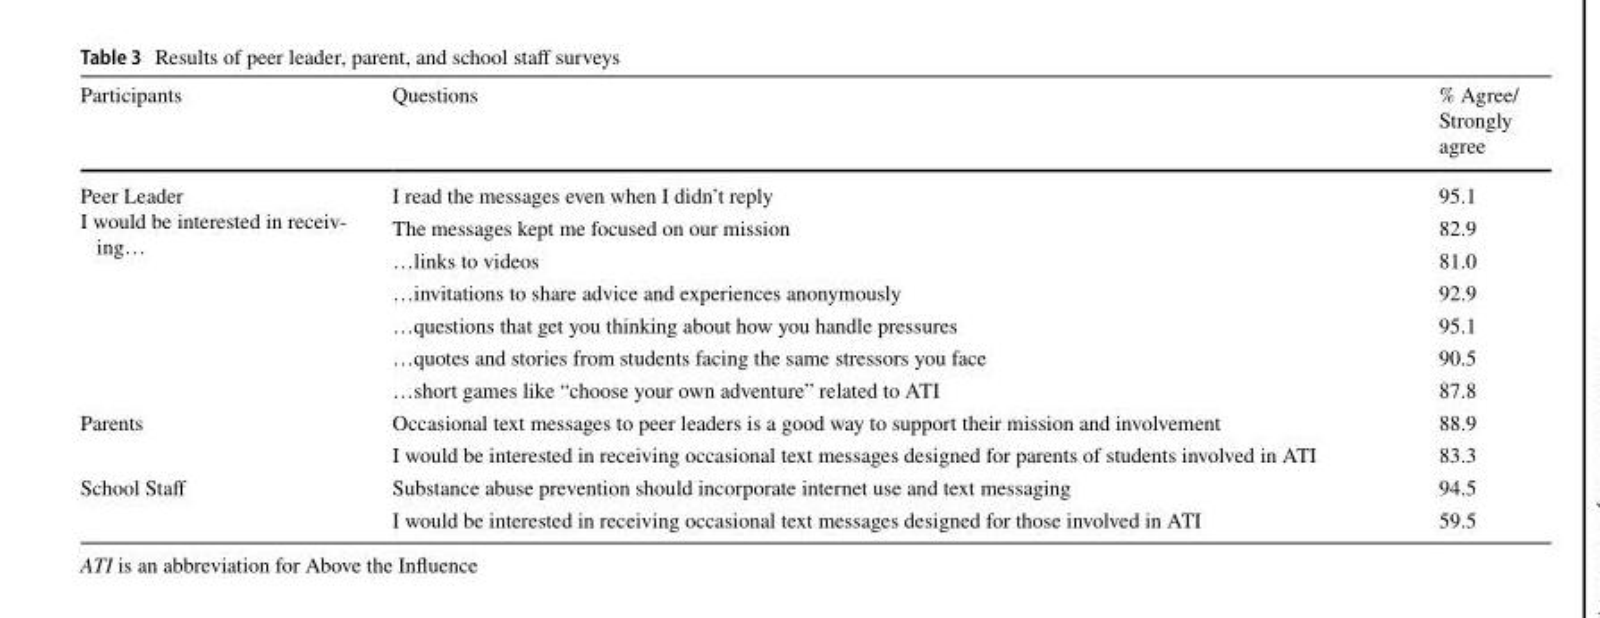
<table><thead><tr><td>Participants</td><td>Questions</td><td>% Agree/ Strongly agree</td></tr></thead><tbody><tr><td rowspan="7">Peer Leader I would be interested in receiv- ing…</td><td>I read the messages even when I didn’t reply</td><td>95.1</td></tr><tr><td>The messages kept me focused on our mission</td><td>82.9</td></tr><tr><td>…links to videos</td><td>81.0</td></tr><tr><td>…invitations to share advice and experiences anonymously</td><td>92.9</td></tr><tr><td>…questions that get you thinking about how you handle pressures</td><td>95.1</td></tr><tr><td>…quotes and stories from students facing the same stressors you face</td><td>90.5</td></tr><tr><td>…short games like “choose your own adventure” related to ATI</td><td>87.8</td></tr><tr><td rowspan="2">Parents</td><td>Occasional text messages to peer leaders is a good way to support their mission and involvement</td><td>88.9</td></tr><tr><td>I would be interested in receiving occasional text messages designed for parents of students involved in ATI</td><td>83.3</td></tr><tr><td rowspan="2">School Staff</td><td>Substance abuse prevention should incorporate internet use and text messaging</td><td>94.5</td></tr><tr><td>I would be interested in receiving occasional text messages designed for those involved in ATI</td><td>59.5</td></tr></tbody></table>